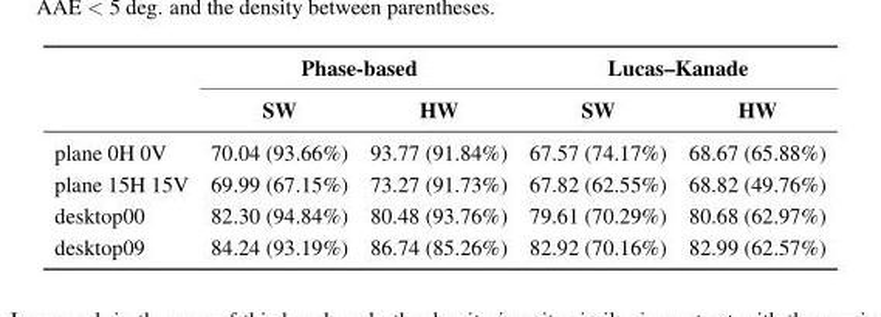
<table><thead><tr><td rowspan="2"></td><td colspan="2">Phase-based</td><td colspan="2">Lucas–Kanade</td></tr><tr><td>SW</td><td>HW</td><td>SW</td><td>HW</td></tr></thead><tbody><tr><td>plane 0H 0V</td><td>70.04 (93.66%)</td><td>93.77 (91.84%)</td><td>67.57 (74.17%)</td><td>68.67 (65.88%)</td></tr><tr><td>plane 15H 15V</td><td>69.99 (67.15%)</td><td>73.27 (91.73%)</td><td>67.82 (62.55%)</td><td>68.82 (49.76%)</td></tr><tr><td>desktop00</td><td>82.30 (94.84%)</td><td>80.48 (93.76%)</td><td>79.61 (70.29%)</td><td>80.68 (62.97%)</td></tr><tr><td>desktop09</td><td>84.24 (93.19%)</td><td>86.74 (85.26%)</td><td>82.92 (70.16%)</td><td>82.99 (62.57%)</td></tr></tbody></table>